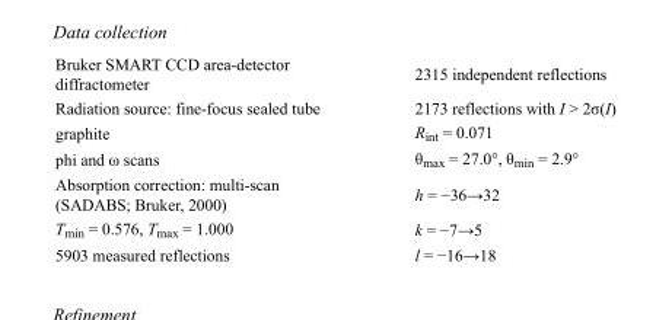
<table><tbody><tr><td>Bruker SMART CCD area-detector diffractometer</td><td>2315 independent reflections</td></tr><tr><td>Radiation source: fine-focus sealed tube</td><td>2173 reflections with I &gt; 2σ(I)</td></tr><tr><td>graphite</td><td>R<sub>int</sub> = 0.071</td></tr><tr><td>phi and ω scans</td><td>θ<sub>max</sub> = 27.0°, θ<sub>min</sub> = 2.9°</td></tr><tr><td>Absorption correction: multi-scan (SADABS; Bruker, 2000)</td><td>h = −36→32</td></tr><tr><td>T<sub>min</sub> = 0.576, T<sub>max</sub> = 1.000</td><td>k = −7→5</td></tr><tr><td>5903 measured reflections</td><td>l = −16→18</td></tr></tbody></table>